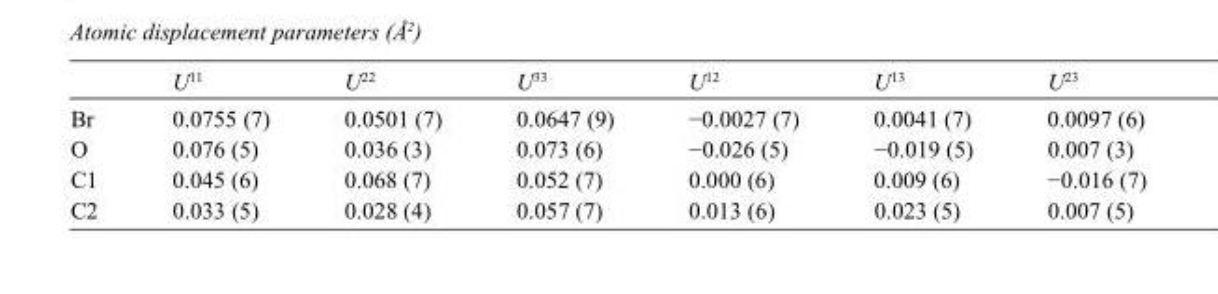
<table><thead><tr><td></td><td>U<sup>11</sup></td><td>U<sup>22</sup></td><td>U<sup>33</sup></td><td>U<sup>12</sup></td><td>U<sup>13</sup></td><td>U<sup>23</sup></td></tr></thead><tbody><tr><td>Br</td><td>0.0755 (7)</td><td>0.0501 (7)</td><td>0.0647 (9)</td><td>−0.0027 (7)</td><td>0.0041 (7)</td><td>0.0097 (6)</td></tr><tr><td>O</td><td>0.076 (5)</td><td>0.036 (3)</td><td>0.073 (6)</td><td>−0.026 (5)</td><td>−0.019 (5)</td><td>0.007 (3)</td></tr><tr><td>C1</td><td>0.045 (6)</td><td>0.068 (7)</td><td>0.052 (7)</td><td>0.000 (6)</td><td>0.009 (6)</td><td>−0.016 (7)</td></tr><tr><td>C2</td><td>0.033 (5)</td><td>0.028 (4)</td><td>0.057 (7)</td><td>0.013 (6)</td><td>0.023 (5)</td><td>0.007 (5)</td></tr></tbody></table>